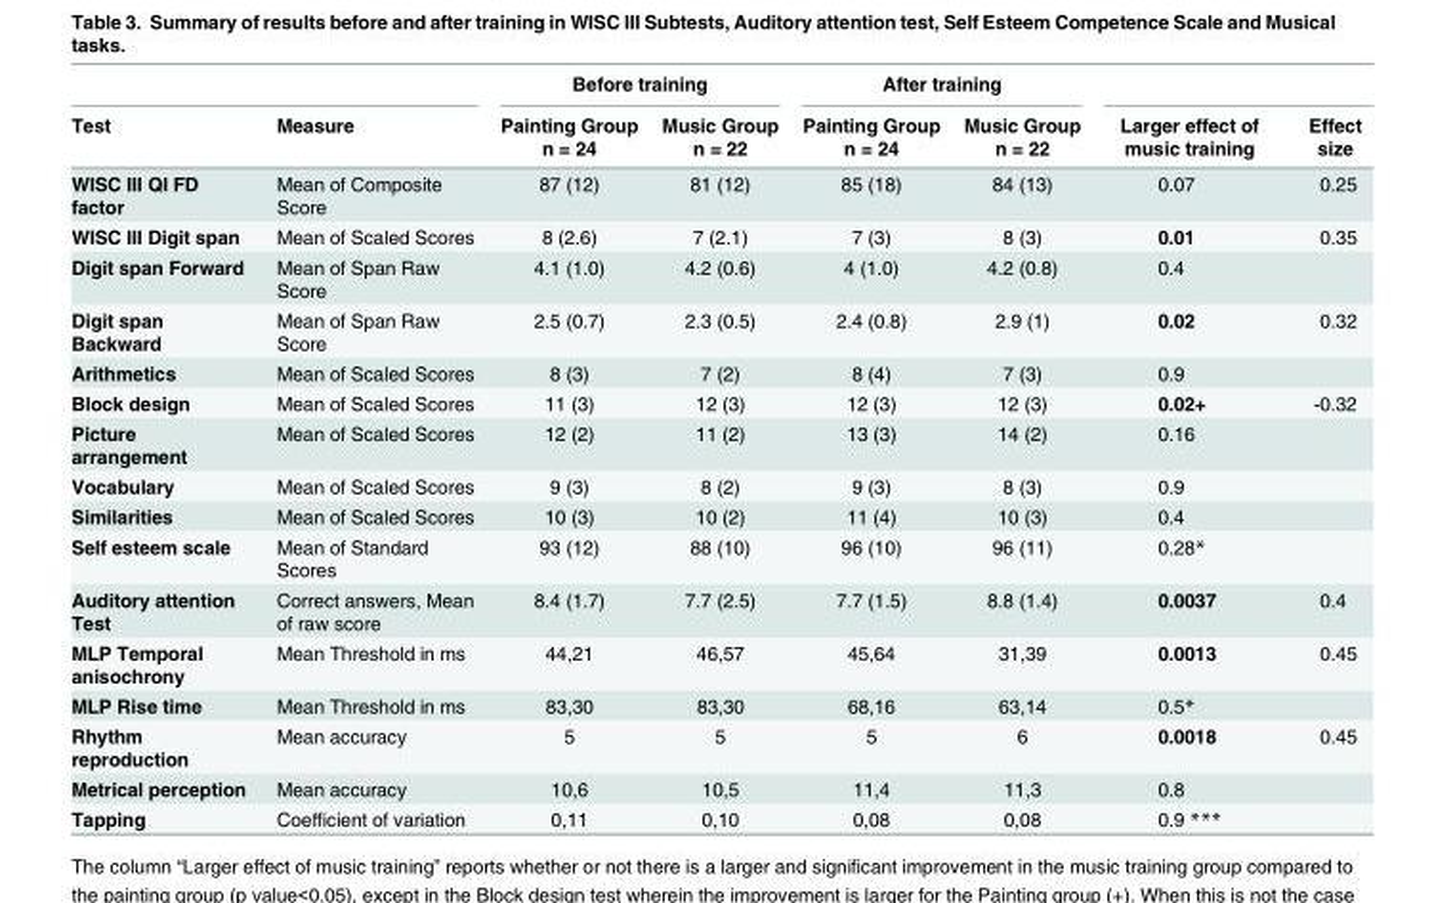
<table><thead><tr><td rowspan="2">Test</td><td rowspan="2">Measure</td><td colspan="2">Before training</td><td colspan="2">After training</td><td rowspan="2">Larger effect of music training</td><td rowspan="2">Effect size</td></tr><tr><td>Painting Group n = 24</td><td>Music Group n = 22</td><td>Painting Group n = 24</td><td>Music Group n = 22</td></tr></thead><tbody><tr><td>WISC III QI FD factor</td><td>Mean of Composite Score</td><td>87 (12)</td><td>81 (12)</td><td>85 (18)</td><td>84 (13)</td><td>0.07</td><td>0.25</td></tr><tr><td>WISC III Digit span</td><td>Mean of Scaled Scores</td><td>8 (2.6)</td><td>7 (2.1)</td><td>7 (3)</td><td>8 (3)</td><td>0.01</td><td>0.35</td></tr><tr><td>Digit span Forward</td><td>Mean of Span Raw Score</td><td>4.1 (1.0)</td><td>4.2 (0.6)</td><td>4 (1.0)</td><td>4.2 (0.8)</td><td>0.4</td><td></td></tr><tr><td>Digit span Backward</td><td>Mean of Span Raw Score</td><td>2.5 (0.7)</td><td>2.3 (0.5)</td><td>2.4 (0.8)</td><td>2.9 (1)</td><td>0.02</td><td>0.32</td></tr><tr><td>Arithmetics</td><td>Mean of Scaled Scores</td><td>8 (3)</td><td>7 (2)</td><td>8 (4)</td><td>7 (3)</td><td>0.9</td><td></td></tr><tr><td>Block design</td><td>Mean of Scaled Scores</td><td>11 (3)</td><td>12 (3)</td><td>12 (3)</td><td>12 (3)</td><td>0.02+</td><td>-0.32</td></tr><tr><td>Picture arrangement</td><td>Mean of Scaled Scores</td><td>12 (2)</td><td>11 (2)</td><td>13 (3)</td><td>14 (2)</td><td>0.16</td><td></td></tr><tr><td>Vocabulary</td><td>Mean of Scaled Scores</td><td>9 (3)</td><td>8 (2)</td><td>9 (3)</td><td>8 (3)</td><td>0.9</td><td></td></tr><tr><td>Similarities</td><td>Mean of Scaled Scores</td><td>10 (3)</td><td>10 (2)</td><td>11 (4)</td><td>10 (3)</td><td>0.4</td><td></td></tr><tr><td>Self esteem scale</td><td>Mean of Standard Scores</td><td>93 (12)</td><td>88 (10)</td><td>96 (10)</td><td>96 (11)</td><td>0.28*</td><td></td></tr><tr><td>Auditory attention Test</td><td>Correct answers, Mean of raw score</td><td>8.4 (1.7)</td><td>7.7 (2.5)</td><td>7.7 (1.5)</td><td>8.8 (1.4)</td><td>0.0037</td><td>0.4</td></tr><tr><td>MLP Temporal anisochrony</td><td>Mean Threshold in ms</td><td>44,21</td><td>46,57</td><td>45,64</td><td>31,39</td><td>0.0013</td><td>0.45</td></tr><tr><td>MLP Rise time</td><td>Mean Threshold in ms</td><td>83,30</td><td>83,30</td><td>68,16</td><td>63,14</td><td>0.5*</td><td></td></tr><tr><td>Rhythm reproduction</td><td>Mean accuracy</td><td>5</td><td>5</td><td>5</td><td>6</td><td>0.0018</td><td>0.45</td></tr><tr><td>Metrical perception</td><td>Mean accuracy</td><td>10,6</td><td>10,5</td><td>11,4</td><td>11,3</td><td>0.8</td><td></td></tr><tr><td>Tapping</td><td>Coefficient of variation</td><td>0,11</td><td>0,10</td><td>0,08</td><td>0,08</td><td>0.9 ***</td><td></td></tr></tbody></table>